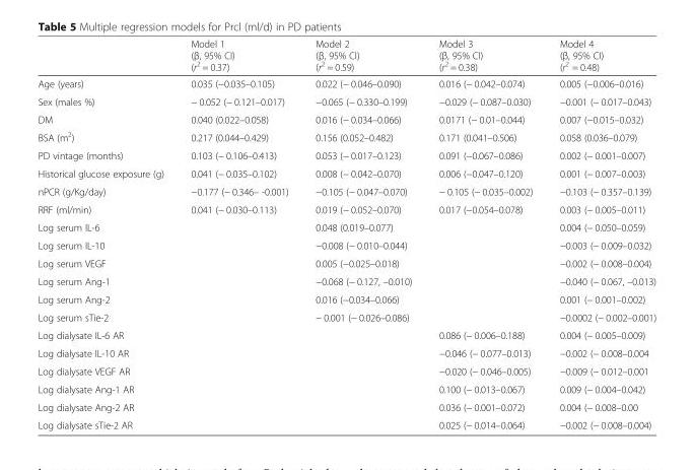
<table><thead><tr><td></td><td>Model 1 (β, 95% CI) (r<sup>2</sup> = 0.37)</td><td>Model 2 (β, 95% CI) (r<sup>2</sup> = 0.59)</td><td>Model 3 (β, 95% CI) (r<sup>2</sup> = 0.38)</td><td>Model 4 (β, 95% CI) (r<sup>2</sup> = 0.48)</td></tr></thead><tbody><tr><td>Age (years)</td><td>0.035 (−0.035–0.105)</td><td>0.022 (− 0.046–0.090)</td><td>0.016 (− 0.042–0.074)</td><td>0.005 (−0.006–0.016)</td></tr><tr><td>Sex (males %)</td><td>− 0.052 (− 0.121–0.017)</td><td>−0.065 (− 0.330–0.199)</td><td>−0.029 (− 0.087–0.030)</td><td>−0.001 (− 0.017–0.043)</td></tr><tr><td>DM</td><td>0.040 (0.022–0.058)</td><td>0.016 (− 0.034–0.066)</td><td>0.0171 (− 0.01–0.044)</td><td>0.007 (−0.015–0.032)</td></tr><tr><td>BSA (m<sup>2</sup>)</td><td>0.217 (0.044–0.429)</td><td>0.156 (0.052–0.482)</td><td>0.171 (0.041–0.506)</td><td>0.058 (0.036–0.079)</td></tr><tr><td>PD vintage (months)</td><td>0.103 (− 0.106–0.413)</td><td>0.053 (− 0.017–0.123)</td><td>0.091 (−0.067–0.086)</td><td>0.002 (− 0.001–0.007)</td></tr><tr><td>Historical glucose exposure (g)</td><td>0.041 (− 0.035–0.102)</td><td>0.008 (− 0.042–0.070)</td><td>0.006 (−0.047–0.120)</td><td>0.001 (− 0.007–0.003)</td></tr><tr><td>nPCR (g/Kg/day)</td><td>−0.177 (− 0.346– -0.001)</td><td>−0.105 (− 0.047–0.070)</td><td>− 0.105 (− 0.035–0.002)</td><td>−0.103 (− 0.357–0.139)</td></tr><tr><td>RRF (ml/min)</td><td>0.041 (− 0.030–0.113)</td><td>0.019 (− 0.052–0.070)</td><td>0.017 (−0.054–0.078)</td><td>0.003 (− 0.005–0.011)</td></tr><tr><td>Log serum IL-6</td><td></td><td>0.048 (0.019–0.077)</td><td></td><td>0.004 (− 0.050–0.059)</td></tr><tr><td>Log serum IL-10</td><td></td><td>−0.008 (− 0.010–0.044)</td><td></td><td>−0.003 (− 0.009–0.032)</td></tr><tr><td>Log serum VEGF</td><td></td><td>0.005 (−0.025–0.018)</td><td></td><td>−0.002 (− 0.008–0.004)</td></tr><tr><td>Log serum Ang-1</td><td></td><td>−0.068 (− 0.127, –0.010)</td><td></td><td>−0.040 (− 0.067, –0.013)</td></tr><tr><td>Log serum Ang-2</td><td></td><td>0.016 (−0.034–0.066)</td><td></td><td>0.001 (− 0.001–0.002)</td></tr><tr><td>Log serum sTie-2</td><td></td><td>− 0.001 (− 0.026–0.086)</td><td></td><td>−0.0002 (− 0.002–0.001)</td></tr><tr><td>Log dialysate IL-6 AR</td><td></td><td></td><td>0.086 (− 0.006–0.188)</td><td>0.004 (− 0.005–0.009)</td></tr><tr><td>Log dialysate IL-10 AR</td><td></td><td></td><td>−0.046 (− 0.077–0.013)</td><td>−0.002 (− 0.008–0.004</td></tr><tr><td>Log dialysate VEGF AR</td><td></td><td></td><td>−0.020 (− 0.046–0.005)</td><td>−0.009 (− 0.012–0.001</td></tr><tr><td>Log dialysate Ang-1 AR</td><td></td><td></td><td>0.100 (− 0.013–0.067)</td><td>0.009 (− 0.004–0.042)</td></tr><tr><td>Log dialysate Ang-2 AR</td><td></td><td></td><td>0.036 (− 0.001–0.072)</td><td>0.004 (− 0.008–0.00</td></tr><tr><td>Log dialysate sTie-2 AR</td><td></td><td></td><td>0.025 (− 0.014–0.064)</td><td>−0.002 (− 0.008–0.004)</td></tr></tbody></table>